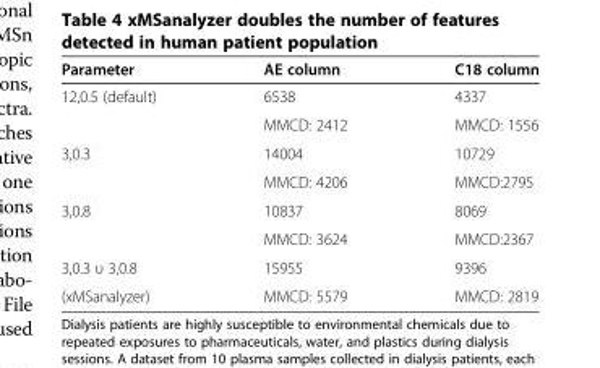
<table><thead><tr><td>Parameter</td><td>AE column</td><td>C18 column</td></tr></thead><tbody><tr><td rowspan="2">12,0.5 (default)</td><td>6538</td><td>4337</td></tr><tr><td>MMCD: 2412</td><td>MMCD: 1556</td></tr><tr><td rowspan="2">3,0.3</td><td>14004</td><td>10729</td></tr><tr><td>MMCD: 4206</td><td>MMCD:2795</td></tr><tr><td rowspan="2">3,0.8</td><td>10837</td><td>8069</td></tr><tr><td>MMCD: 3624</td><td>MMCD:2367</td></tr><tr><td>3,0.3 υ 3,0.8</td><td>15955</td><td>9396</td></tr><tr><td>(xMSanalyzer)</td><td>MMCD: 5579</td><td>MMCD: 2819</td></tr></tbody></table>